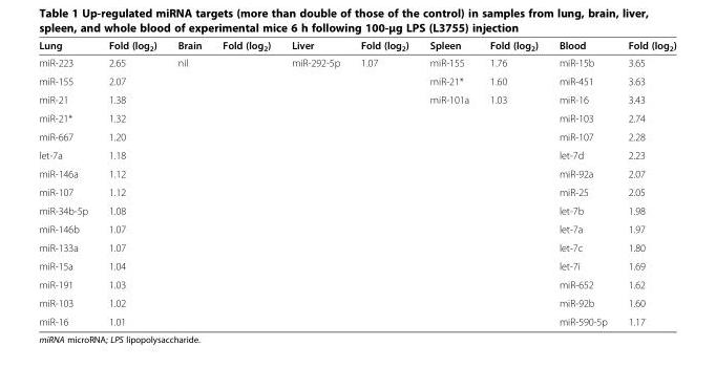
<table><thead><tr><td>Lung</td><td>Fold (log<sub>2</sub>)</td><td>Brain</td><td>Fold (log<sub>2</sub>)</td><td>Liver</td><td>Fold (log<sub>2</sub>)</td><td>Spleen</td><td>Fold (log<sub>2</sub>)</td><td>Blood</td><td>Fold (log<sub>2</sub>)</td></tr></thead><tbody><tr><td>miR-223</td><td>2.65</td><td>nil</td><td></td><td>miR-292-5p</td><td>1.07</td><td>miR-155</td><td>1.76</td><td>miR-15b</td><td>3.65</td></tr><tr><td>miR-155</td><td>2.07</td><td></td><td></td><td></td><td></td><td>miR-21*</td><td>1.60</td><td>miR-451</td><td>3.63</td></tr><tr><td>miR-21</td><td>1.38</td><td></td><td></td><td></td><td></td><td>miR-101a</td><td>1.03</td><td>miR-16</td><td>3.43</td></tr><tr><td>miR-21*</td><td>1.32</td><td></td><td></td><td></td><td></td><td></td><td></td><td>miR-103</td><td>2.74</td></tr><tr><td>miR-667</td><td>1.20</td><td></td><td></td><td></td><td></td><td></td><td></td><td>miR-107</td><td>2.28</td></tr><tr><td>let-7a</td><td>1.18</td><td></td><td></td><td></td><td></td><td></td><td></td><td>let-7d</td><td>2.23</td></tr><tr><td>miR-146a</td><td>1.12</td><td></td><td></td><td></td><td></td><td></td><td></td><td>miR-92a</td><td>2.07</td></tr><tr><td>miR-107</td><td>1.12</td><td></td><td></td><td></td><td></td><td></td><td></td><td>miR-25</td><td>2.05</td></tr><tr><td>miR-34b-5p</td><td>1.08</td><td></td><td></td><td></td><td></td><td></td><td></td><td>let-7b</td><td>1.98</td></tr><tr><td>miR-146b</td><td>1.07</td><td></td><td></td><td></td><td></td><td></td><td></td><td>let-7a</td><td>1.97</td></tr><tr><td>miR-133a</td><td>1.07</td><td></td><td></td><td></td><td></td><td></td><td></td><td>let-7c</td><td>1.80</td></tr><tr><td>miR-15a</td><td>1.04</td><td></td><td></td><td></td><td></td><td></td><td></td><td>let-7i</td><td>1.69</td></tr><tr><td>miR-191</td><td>1.03</td><td></td><td></td><td></td><td></td><td></td><td></td><td>miR-652</td><td>1.62</td></tr><tr><td>miR-103</td><td>1.02</td><td></td><td></td><td></td><td></td><td></td><td></td><td>miR-92b</td><td>1.60</td></tr><tr><td>miR-16</td><td>1.01</td><td></td><td></td><td></td><td></td><td></td><td></td><td>miR-590-5p</td><td>1.17</td></tr></tbody></table>